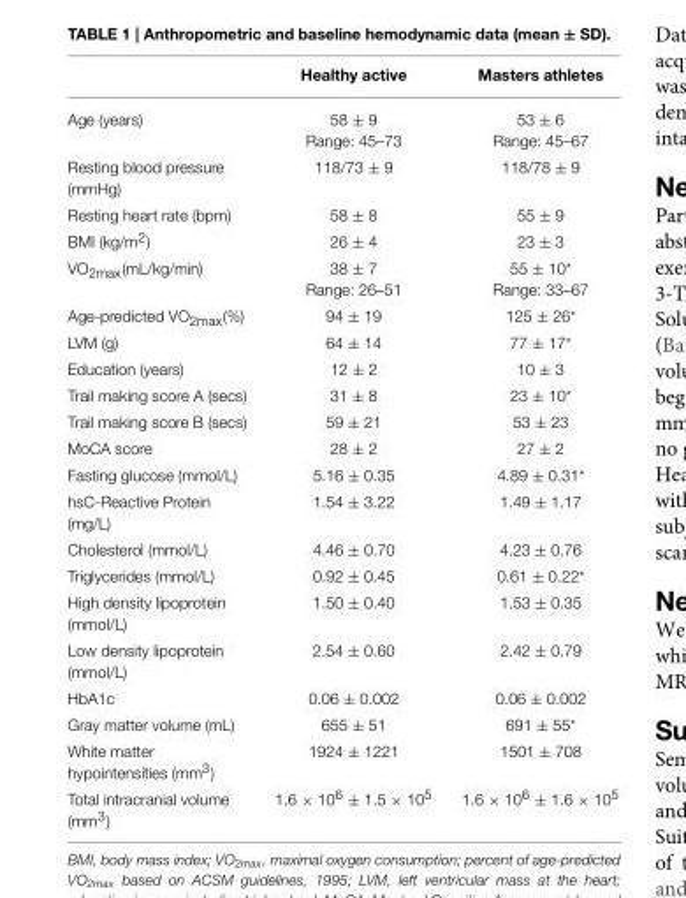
<table><thead><tr><td></td><td>Healthy active</td><td>Masters athletes</td></tr></thead><tbody><tr><td>Age (years)</td><td>58 ± 9 Range: 45–73</td><td>53 ± 6 Range: 45–67</td></tr><tr><td>Resting blood pressure (mmHg)</td><td>118/73 ± 9</td><td>118/78 ± 9</td></tr><tr><td>Resting heart rate (bpm)</td><td>58 ± 8</td><td>55 ± 9</td></tr><tr><td>BMI (kg/m<sup>2</sup>)</td><td>26 ± 4</td><td>23 ± 3</td></tr><tr><td>VO<sub>2max</sub>(mL/kg/min)</td><td>38 ± 7 Range: 26–51</td><td>55 ± 10* Range: 33–67</td></tr><tr><td>Age-predicted VO<sub>2max</sub>(%)</td><td>94 ± 19</td><td>125 ± 26*</td></tr><tr><td>LVM (g)</td><td>64 ± 14</td><td>77 ± 17*</td></tr><tr><td>Education (years)</td><td>12 ± 2</td><td>10 ± 3</td></tr><tr><td>Trail making score A (secs)</td><td>31 ± 8</td><td>23 ± 10*</td></tr><tr><td>Trail making score B (secs)</td><td>59 ± 21</td><td>53 ± 23</td></tr><tr><td>MoCA score</td><td>28 ± 2</td><td>27 ± 2</td></tr><tr><td>Fasting glucose (mmol/L)</td><td>5.16 ± 0.35</td><td>4.89 ± 0.31*</td></tr><tr><td>hsC-Reactive Protein (mg/L)</td><td>1.54 ± 3.22</td><td>1.49 ± 1.17</td></tr><tr><td>Cholesterol (mmol/L)</td><td>4.46 ± 0.70</td><td>4.23 ± 0.76</td></tr><tr><td>Triglycerides (mmol/L)</td><td>0.92 ± 0.45</td><td>0.61 ± 0.22*</td></tr><tr><td>High density lipoprotein (mmol/L)</td><td>1.50 ± 0.40</td><td>1.53 ± 0.35</td></tr><tr><td>Low density lipoprotein (mmol/L)</td><td>2.54 ± 0.60</td><td>2.42 ± 0.79</td></tr><tr><td>HbA1c</td><td>0.06 ± 0.002</td><td>0.06 ± 0.002</td></tr><tr><td>Gray matter volume (mL)</td><td>655 ± 51</td><td>691 ± 55*</td></tr><tr><td>White matter hypointensities (mm<sup>3</sup>)</td><td>1924 ± 1221</td><td>1501 ± 708</td></tr><tr><td>Total intracranial volume (mm<sup>3</sup>)</td><td>1.6 × 10<sup>6</sup> ± 1.5 × 10<sup>5</sup></td><td>1.6 × 10<sup>6</sup> ± 1.6 × 10<sup>5</sup></td></tr></tbody></table>